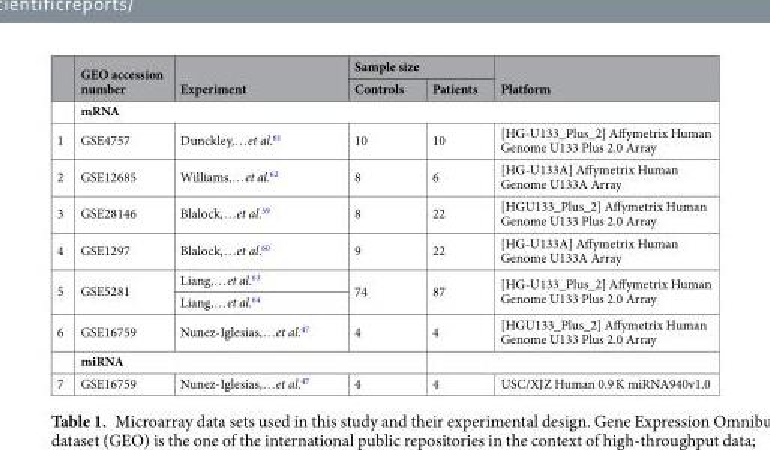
<table><thead><tr><td rowspan="2"></td><td rowspan="2">GEO accession number</td><td rowspan="2">Experiment</td><td colspan="2">Sample size</td><td rowspan="2">Platform</td></tr><tr><td>Controls</td><td>Patients</td></tr></thead><tbody><tr><td></td><td colspan="5">mRNA</td></tr><tr><td>1</td><td>GSE4757</td><td>Dunckley,…et al.<sup>61</sup></td><td>10</td><td>10</td><td>[HG-U133_Plus_2] Affymetrix Human Genome U133 Plus 2.0 Array</td></tr><tr><td>2</td><td>GSE12685</td><td>Williams,…et al.<sup>62</sup></td><td>8</td><td>6</td><td>[HG-U133A] Affymetrix Human Genome U133A Array</td></tr><tr><td>3</td><td>GSE28146</td><td>Blalock,…et al.<sup>59</sup></td><td>8</td><td>22</td><td>[HGU133_Plus_2] Affymetrix Human Genome U133 Plus 2.0 Array</td></tr><tr><td>4</td><td>GSE1297</td><td>Blalock,…et al.<sup>60</sup></td><td>9</td><td>22</td><td>[HG-U133A] Affymetrix Human Genome U133A Array</td></tr><tr><td rowspan="2">5</td><td rowspan="2">GSE5281</td><td>Liang,…et al.<sup>63</sup></td><td rowspan="2">74</td><td rowspan="2">87</td><td rowspan="2">[HG-U133_Plus_2] Affymetrix Human Genome U133 Plus 2.0 Array</td></tr><tr><td>Liang,…et al.<sup>64</sup></td></tr><tr><td rowspan="2">6</td><td>GSE16759</td><td>Nunez-Iglesias,…et al.<sup>47</sup></td><td>4</td><td>4</td><td>[HGU133_Plus_2] Affymetrix Human Genome U133 Plus 2.0 Array</td></tr><tr><td colspan="3">miRNA</td><td colspan="2"></td></tr><tr><td>7</td><td>GSE16759</td><td>Nunez-Iglesias,…et al.<sup>47</sup></td><td>4</td><td>4</td><td>USC/XJZ Human 0.9 K miRNA940v1.0</td></tr></tbody></table>